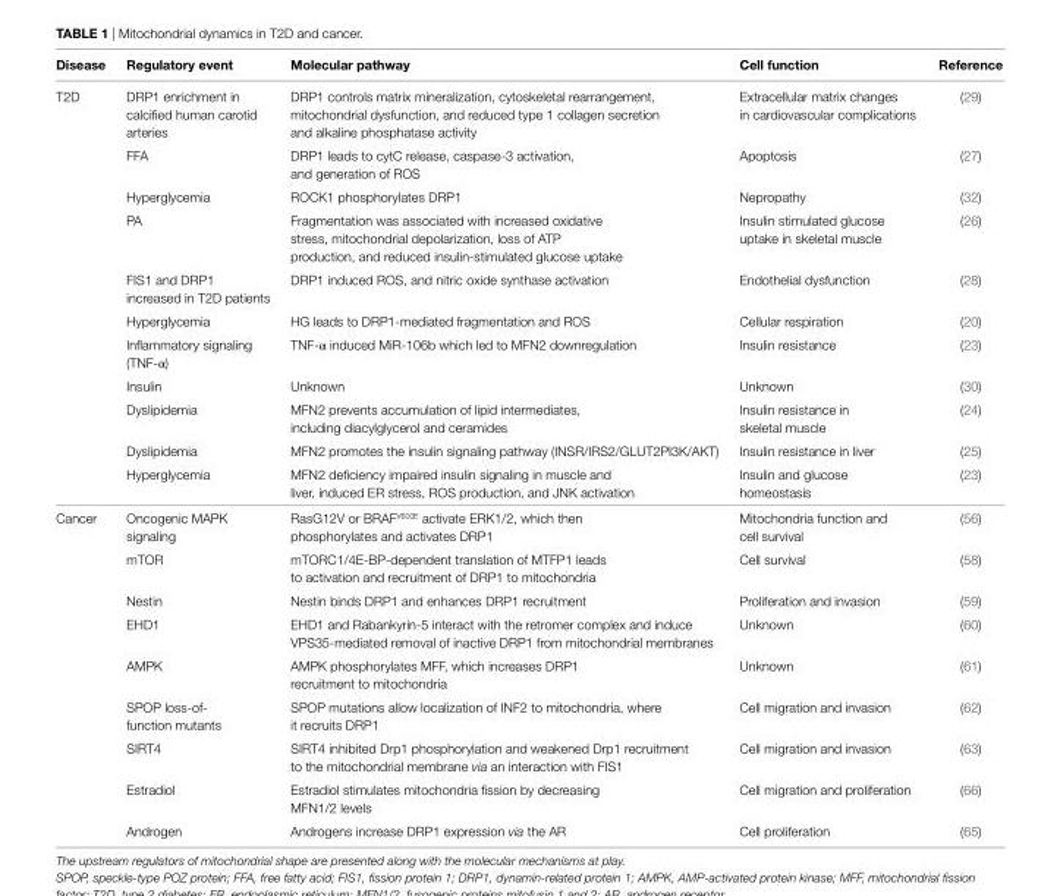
<table><thead><tr><td>Disease</td><td>Regulatory event</td><td>Molecular pathway</td><td>Cell function</td><td>Reference</td></tr></thead><tbody><tr><td rowspan="11">T2D</td><td>DRP1 enrichment in calcified human carotid arteries</td><td>DRP1 controls matrix mineralization, cytoskeletal rearrangement, mitochondrial dysfunction, and reduced type 1 collagen secretion and alkaline phosphatase activity</td><td>Extracellular matrix changes in cardiovascular complications</td><td>(29)</td></tr><tr><td>FFA</td><td>DRP1 leads to cytC release, caspase-3 activation, and generation of ROS</td><td>Apoptosis</td><td>(27)</td></tr><tr><td>Hyperglycemia</td><td>ROCK1 phosphorylates DRP1</td><td>Nepropathy</td><td>(32)</td></tr><tr><td>PA</td><td>Fragmentation was associated with increased oxidative stress, mitochondrial depolarization, loss of ATP production, and reduced insulin-stimulated glucose uptake</td><td>Insulin stimulated glucose uptake in skeletal muscle</td><td>(26)</td></tr><tr><td>FIS1 and DRP1 increased in T2D patients</td><td>DRP1 induced ROS, and nitric oxide synthase activation</td><td>Endothelial dysfunction</td><td>(28)</td></tr><tr><td>Hyperglycemia</td><td>HG leads to DRP1-mediated fragmentation and ROS</td><td>Cellular respiration</td><td>(20)</td></tr><tr><td>Inflammatory signaling (TNF-α)</td><td>TNF-α induced MiR-106b which led to MFN2 downregulation</td><td>Insulin resistance</td><td>(23)</td></tr><tr><td>Insulin</td><td>Unknown</td><td>Unknown</td><td>(30)</td></tr><tr><td>Dyslipidemia</td><td>MFN2 prevents accumulation of lipid intermediates, including diacylglycerol and ceramides</td><td>Insulin resistance in skeletal muscle</td><td>(24)</td></tr><tr><td>Dyslipidemia</td><td>MFN2 promotes the insulin signaling pathway (INSR/IRS2/GLUT2PI3K/AKT)</td><td>Insulin resistance in liver</td><td>(25)</td></tr><tr><td>Hyperglycemia</td><td>MFN2 deficiency impaired insulin signaling in muscle and liver, induced ER stress, ROS production, and JNK activation</td><td>Insulin and glucose homeostasis</td><td>(23)</td></tr><tr><td rowspan="9">Cancer</td><td>Oncogenic MAPK signaling</td><td>RasG12V or BRAF<sup>V600E</sup> activate ERK1/2, which then phosphorylates and activates DRP1</td><td>Mitochondria function and cell survival</td><td>(56)</td></tr><tr><td>mTOR</td><td>mTORC1/4E-BP-dependent translation of MTFP1 leads to activation and recruitment of DRP1 to mitochondria</td><td>Cell survival</td><td>(58)</td></tr><tr><td>Nestin</td><td>Nestin binds DRP1 and enhances DRP1 recruitment</td><td>Proliferation and invasion</td><td>(59)</td></tr><tr><td>EHD1</td><td>EHD1 and Rabankyrin-5 interact with the retromer complex and induce VPS35-mediated removal of inactive DRP1 from mitochondrial membranes</td><td>Unknown</td><td>(60)</td></tr><tr><td>AMPK</td><td>AMPK phosphorylates MFF, which increases DRP1 recruitment to mitochondria</td><td>Unknown</td><td>(61)</td></tr><tr><td>SPOP loss-of- function mutants</td><td>SPOP mutations allow localization of INF2 to mitochondria, where it recruits DRP1</td><td>Cell migration and invasion</td><td>(62)</td></tr><tr><td>SIRT4</td><td>SIRT4 inhibited Drp1 phosphorylation and weakened Drp1 recruitment to the mitochondrial membrane via an interaction with FIS1</td><td>Cell migration and invasion</td><td>(63)</td></tr><tr><td>Estradiol</td><td>Estradiol stimulates mitochondria fission by decreasing MFN1/2 levels</td><td>Cell migration and proliferation</td><td>(66)</td></tr><tr><td>Androgen</td><td>Androgens increase DRP1 expression via the AR</td><td>Cell proliferation</td><td>(65)</td></tr></tbody></table>